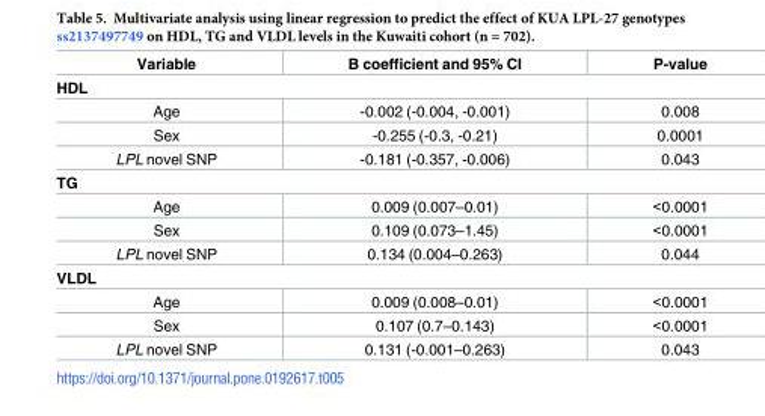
<table><thead><tr><td>Variable</td><td>B coefficient and 95% CI</td><td>P-value</td></tr></thead><tbody><tr><td colspan="3">HDL</td></tr><tr><td>Age</td><td>-0.002 (-0.004, -0.001)</td><td>0.008</td></tr><tr><td>Sex</td><td>-0.255 (-0.3, -0.21)</td><td>0.0001</td></tr><tr><td>LPL novel SNP</td><td>-0.181 (-0.357, -0.006)</td><td>0.043</td></tr><tr><td colspan="3">TG</td></tr><tr><td>Age</td><td>0.009 (0.007–0.01)</td><td>&lt;0.0001</td></tr><tr><td>Sex</td><td>0.109 (0.073–1.45)</td><td>&lt;0.0001</td></tr><tr><td>LPL novel SNP</td><td>0.134 (0.004–0.263)</td><td>0.044</td></tr><tr><td colspan="3">VLDL</td></tr><tr><td>Age</td><td>0.009 (0.008–0.01)</td><td>&lt;0.0001</td></tr><tr><td>Sex</td><td>0.107 (0.7–0.143)</td><td>&lt;0.0001</td></tr><tr><td>LPL novel SNP</td><td>0.131 (-0.001–0.263)</td><td>0.043</td></tr></tbody></table>